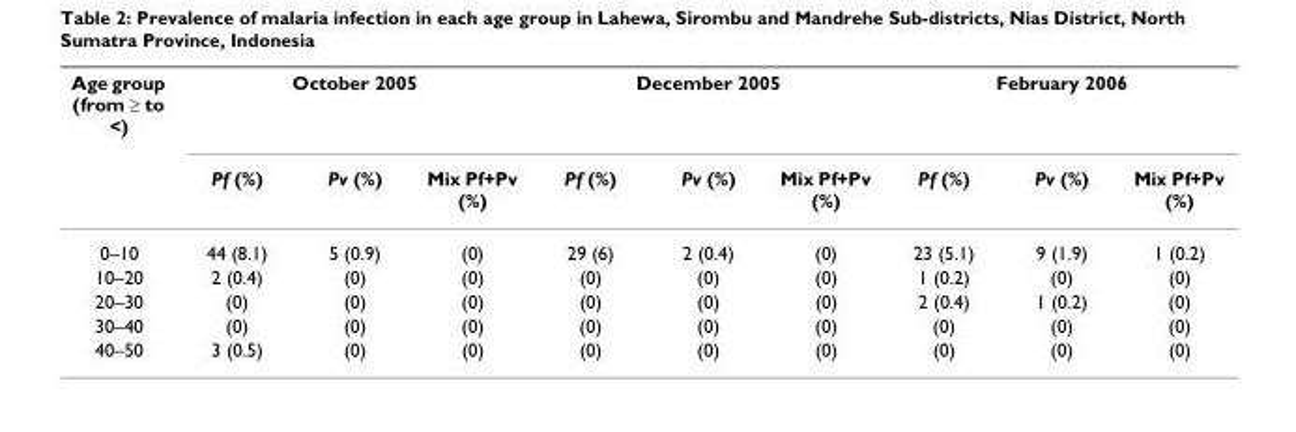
<table><thead><tr><td rowspan="2">Age group (from ≥ to &lt;)</td><td colspan="3">October 2005</td><td colspan="3">December 2005</td><td colspan="3">February 2006</td></tr><tr><td>Pf (%)</td><td>Pv (%)</td><td>Mix Pf+Pv (%)</td><td>Pf (%)</td><td>Pv (%)</td><td>Mix Pf+Pv (%)</td><td>Pf (%)</td><td>Pv (%)</td><td>Mix Pf+Pv (%)</td></tr></thead><tbody><tr><td>0–10</td><td>44 (8.1)</td><td>5 (0.9)</td><td>(0)</td><td>29 (6)</td><td>2 (0.4)</td><td>(0)</td><td>23 (5.1)</td><td>9 (1.9)</td><td>1 (0.2)</td></tr><tr><td>10–20</td><td>2 (0.4)</td><td>(0)</td><td>(0)</td><td>(0)</td><td>(0)</td><td>(0)</td><td>1 (0.2)</td><td>(0)</td><td>(0)</td></tr><tr><td>20–30</td><td>(0)</td><td>(0)</td><td>(0)</td><td>(0)</td><td>(0)</td><td>(0)</td><td>2 (0.4)</td><td>1 (0.2)</td><td>(0)</td></tr><tr><td>30–40</td><td>(0)</td><td>(0)</td><td>(0)</td><td>(0)</td><td>(0)</td><td>(0)</td><td>(0)</td><td>(0)</td><td>(0)</td></tr><tr><td>40–50</td><td>3 (0.5)</td><td>(0)</td><td>(0)</td><td>(0)</td><td>(0)</td><td>(0)</td><td>(0)</td><td>(0)</td><td>(0)</td></tr></tbody></table>